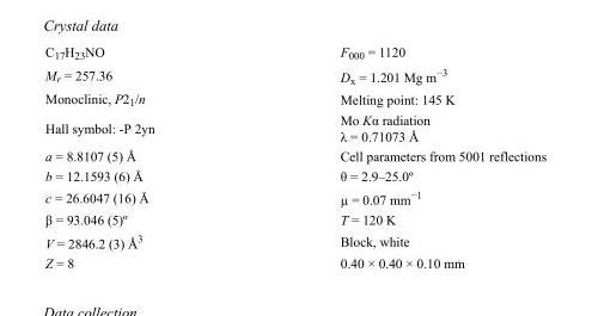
<table><tbody><tr><td>C<sub>17</sub>H<sub>23</sub>NO</td><td>F000 = 1120</td></tr><tr><td>M<sub>r</sub> = 257.36</td><td>D<sub>x</sub> = 1.201 Mg m<sup>−3</sup></td></tr><tr><td>Monoclinic, P2<sub>1</sub>/n</td><td>Melting point: 145 K</td></tr><tr><td>Hall symbol: -P 2yn</td><td>Mo Kα radiation λ = 0.71073 Å</td></tr><tr><td>a = 8.8107 (5) Å</td><td>Cell parameters from 5001 reflections</td></tr><tr><td>b = 12.1593 (6) Å</td><td>θ = 2.9–25.0º</td></tr><tr><td>c = 26.6047 (16) Å</td><td>µ = 0.07 mm<sup>−1</sup></td></tr><tr><td>β = 93.046 (5)º</td><td>T = 120 K</td></tr><tr><td>V = 2846.2 (3) Å<sup>3</sup></td><td>Block, white</td></tr><tr><td>Z = 8</td><td>0.40 × 0.40 × 0.10 mm</td></tr></tbody></table>